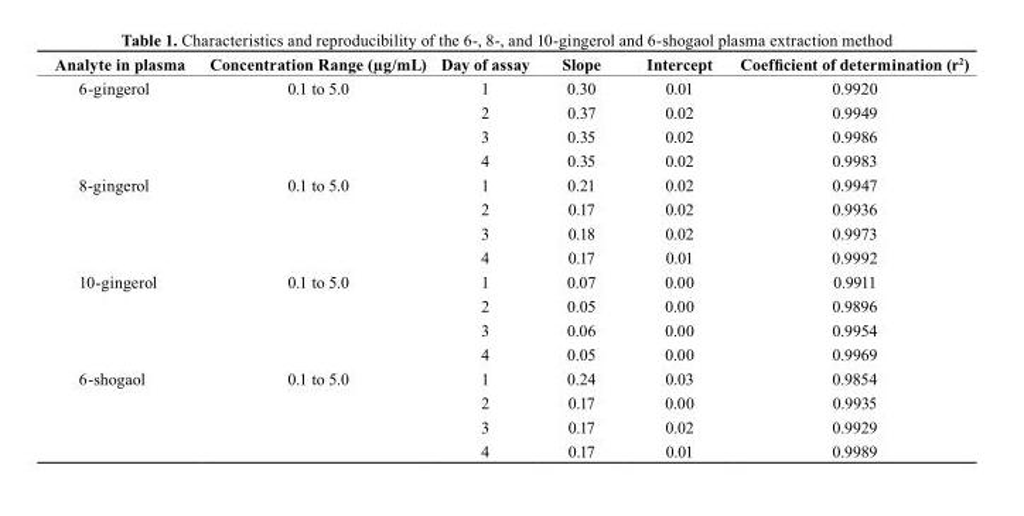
<table><thead><tr><td>Analyte in plasma</td><td>concentration range (µg/mL)</td><td>day of assay</td><td>slope</td><td>Intercept</td><td>Coefficient of determination (r<sup>2</sup>)</td></tr></thead><tbody><tr><td rowspan="4">6-gingerol</td><td>0.1 to 5.0</td><td>1</td><td>0.30</td><td>0.01</td><td>0.9920</td></tr><tr><td></td><td>2</td><td>0.37</td><td>0.02</td><td>0.9949</td></tr><tr><td></td><td>3</td><td>0.35</td><td>0.02</td><td>0.9986</td></tr><tr><td></td><td>4</td><td>0.35</td><td>0.02</td><td>0.9983</td></tr><tr><td rowspan="4">8-gingerol</td><td>0.1 to 5.0</td><td>1</td><td>0.21</td><td>0.02</td><td>0.9947</td></tr><tr><td></td><td>2</td><td>0.17</td><td>0.02</td><td>0.9936</td></tr><tr><td></td><td>3</td><td>0.18</td><td>0.02</td><td>0.9973</td></tr><tr><td></td><td>4</td><td>0.17</td><td>0.01</td><td>0.9992</td></tr><tr><td rowspan="4">10-gingerol</td><td>0.1 to 5.0</td><td>1</td><td>0.07</td><td>0.00</td><td>0.9911</td></tr><tr><td></td><td>2</td><td>0.05</td><td>0.00</td><td>0.9896</td></tr><tr><td></td><td>3</td><td>0.06</td><td>0.00</td><td>0.9954</td></tr><tr><td></td><td>4</td><td>0.05</td><td>0.00</td><td>0.9969</td></tr><tr><td rowspan="4">6-shogaol</td><td>0.1 to 5.0</td><td>1</td><td>0.24</td><td>0.03</td><td>0.9854</td></tr><tr><td></td><td>2</td><td>0.17</td><td>0.00</td><td>0.9935</td></tr><tr><td></td><td>3</td><td>0.17</td><td>0.02</td><td>0.9929</td></tr><tr><td></td><td>4</td><td>0.17</td><td>0.01</td><td>0.9989</td></tr></tbody></table>